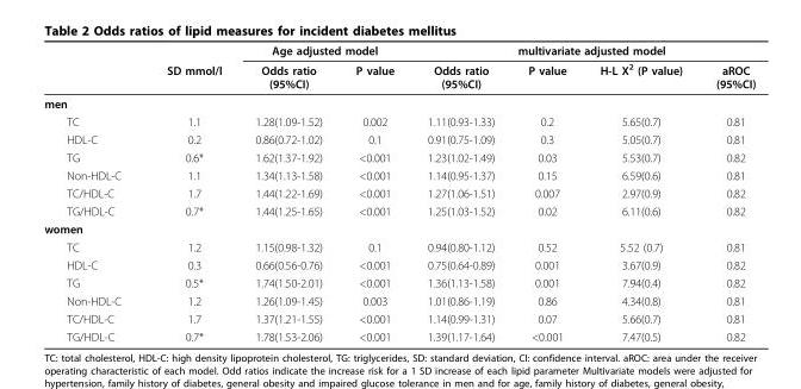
<table><thead><tr><td rowspan="2"></td><td rowspan="2">SD mmol/l</td><td colspan="2">Age adjusted model</td><td colspan="4">multivariate adjusted model</td></tr><tr><td>Odds ratio (95%CI)</td><td>P value</td><td>Odds ratio (95%CI)</td><td>P value</td><td>H-L X<sup>2</sup> (P value)</td><td>aROC (95%CI)</td></tr></thead><tbody><tr><td colspan="8">men</td></tr><tr><td>TC</td><td>1.1</td><td>1.28(1.09-1.52)</td><td>0.002</td><td>1.11(0.93-1.33)</td><td>0.2</td><td>5.65(0.7)</td><td>0.81</td></tr><tr><td>HDL-C</td><td>0.2</td><td>0.86(0.72-1.02)</td><td>0.1</td><td>0.91(0.75-1.09)</td><td>0.3</td><td>5.05(0.7)</td><td>0.81</td></tr><tr><td>TG</td><td>0.6*</td><td>1.62(1.37-1.92)</td><td>&lt;0.001</td><td>1.23(1.02-1.49)</td><td>0.03</td><td>5.53(0.7)</td><td>0.82</td></tr><tr><td>Non-HDL-C</td><td>1.1</td><td>1.34(1.13-1.58)</td><td>&lt;0.001</td><td>1.14(0.95-1.37)</td><td>0.15</td><td>6.59(0.6)</td><td>0.81</td></tr><tr><td>TC/HDL-C</td><td>1.7</td><td>1.44(1.22-1.69)</td><td>&lt;0.001</td><td>1.27(1.06-1.51)</td><td>0.007</td><td>2.97(0.9)</td><td>0.82</td></tr><tr><td>TG/HDL-C</td><td>0.7*</td><td>1.44(1.25-1.65)</td><td>&lt;0.001</td><td>1.25(1.03-1.52)</td><td>0.02</td><td>6.11(0.6)</td><td>0.82</td></tr><tr><td colspan="8">women</td></tr><tr><td>TC</td><td>1.2</td><td>1.15(0.98-1.32)</td><td>0.1</td><td>0.94(0.80-1.12)</td><td>0.52</td><td>5.52 (0.7)</td><td>0.81</td></tr><tr><td>HDL-C</td><td>0.3</td><td>0.66(0.56-0.76)</td><td>&lt;0.001</td><td>0.75(0.64-0.89)</td><td>0.001</td><td>3.67(0.9)</td><td>0.82</td></tr><tr><td>TG</td><td>0.5*</td><td>1.74(1.50-2.01)</td><td>&lt;0.001</td><td>1.36(1.13-1.58)</td><td>0.001</td><td>7.94(0.4)</td><td>0.82</td></tr><tr><td>Non-HDL-C</td><td>1.2</td><td>1.26(1.09-1.45)</td><td>0.003</td><td>1.01(0.86-1.19)</td><td>0.86</td><td>4.34(0.8)</td><td>0.81</td></tr><tr><td>TC/HDL-C</td><td>1.7</td><td>1.37(1.21-1.55)</td><td>&lt;0.001</td><td>1.14(0.99-1.31)</td><td>0.07</td><td>5.66(0.7)</td><td>0.81</td></tr><tr><td>TG/HDL-C</td><td>0.7*</td><td>1.78(1.53-2.06)</td><td>&lt;0.001</td><td>1.39(1.17-1.64)</td><td>&lt;0.001</td><td>7.47(0.5)</td><td>0.82</td></tr></tbody></table>